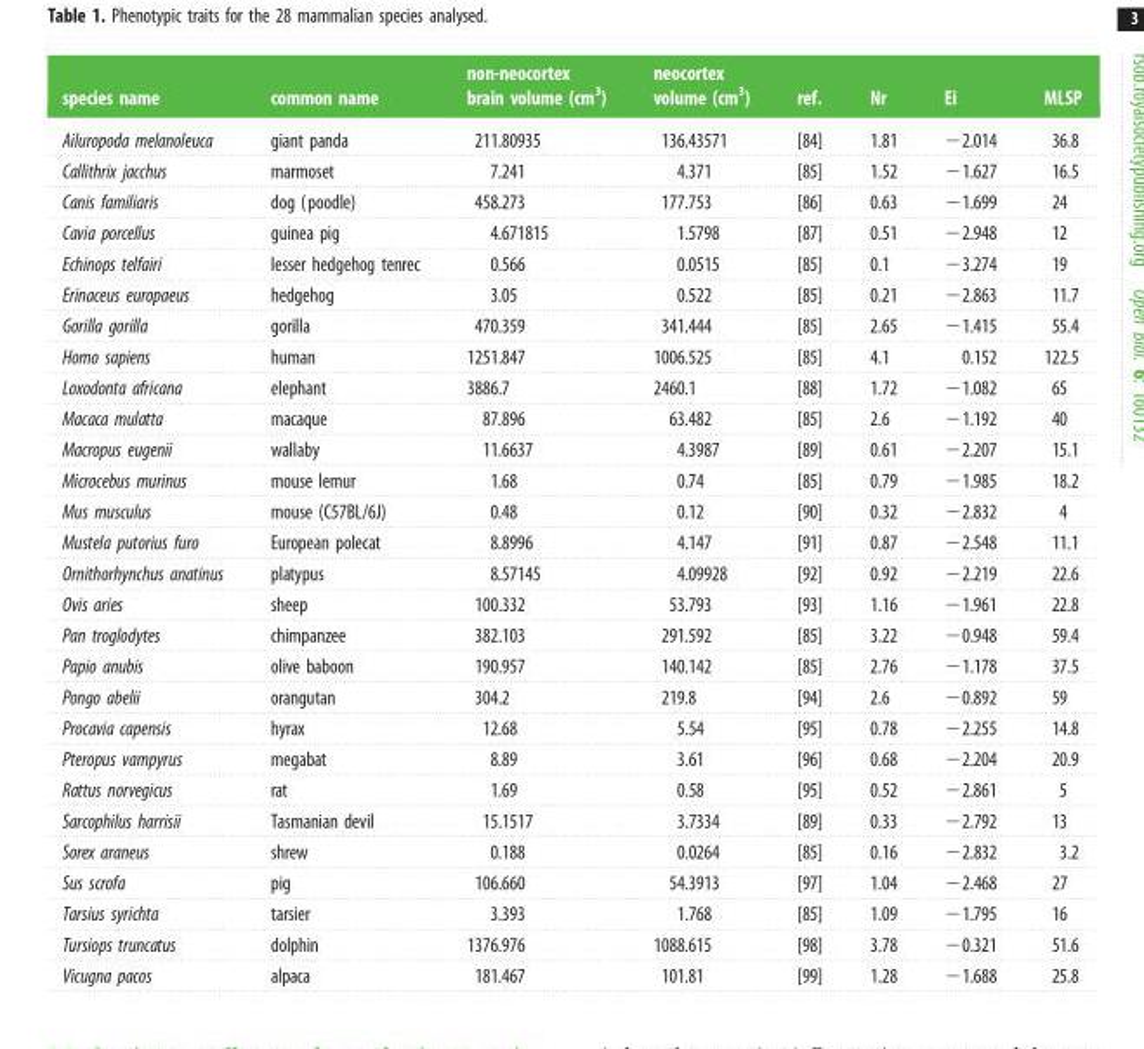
<table><thead><tr><td>species name</td><td>common name</td><td>non-neocortex brain volume (cm<sup>3</sup>)</td><td>neocortex volume (cm<sup>3</sup>)</td><td>ref.</td><td>Nr</td><td>Ei</td><td>MLSP</td></tr></thead><tbody><tr><td>Ailuropoda melanoleuca</td><td>giant panda</td><td>211.80935</td><td>136.43571</td><td>[84]</td><td>1.81</td><td>−2.014</td><td>36.8</td></tr><tr><td>Callithrix jacchus</td><td>marmoset</td><td>7.241</td><td>4.371</td><td>[85]</td><td>1.52</td><td>−1.627</td><td>16.5</td></tr><tr><td>Canis familiaris</td><td>dog (poodle)</td><td>458.273</td><td>177.753</td><td>[86]</td><td>0.63</td><td>−1.699</td><td>24</td></tr><tr><td>Cavia porcellus</td><td>guinea pig</td><td>4.671815</td><td>1.5798</td><td>[87]</td><td>0.51</td><td>−2.948</td><td>12</td></tr><tr><td>Echinops telfairi</td><td>lesser hedgehog tenrec</td><td>0.566</td><td>0.0515</td><td>[85]</td><td>0.1</td><td>−3.274</td><td>19</td></tr><tr><td>Erinaceus europaeus</td><td>hedgehog</td><td>3.05</td><td>0.522</td><td>[85]</td><td>0.21</td><td>−2.863</td><td>11.7</td></tr><tr><td>Gorilla gorilla</td><td>gorilla</td><td>470.359</td><td>341.444</td><td>[85]</td><td>2.65</td><td>−1.415</td><td>55.4</td></tr><tr><td>Homo sapiens</td><td>human</td><td>1251.847</td><td>1006.525</td><td>[85]</td><td>4.1</td><td>0.152</td><td>122.5</td></tr><tr><td>Loxodonta africana</td><td>elephant</td><td>3886.7</td><td>2460.1</td><td>[88]</td><td>1.72</td><td>−1.082</td><td>65</td></tr><tr><td>Macaca mulatta</td><td>macaque</td><td>87.896</td><td>63.482</td><td>[85]</td><td>2.6</td><td>−1.192</td><td>40</td></tr><tr><td>Macropus eugenii</td><td>wallaby</td><td>11.6637</td><td>4.3987</td><td>[89]</td><td>0.61</td><td>−2.207</td><td>15.1</td></tr><tr><td>Microcebus murinus</td><td>mouse lemur</td><td>1.68</td><td>0.74</td><td>[85]</td><td>0.79</td><td>−1.985</td><td>18.2</td></tr><tr><td>Mus musculus</td><td>mouse (C57BL/6J)</td><td>0.48</td><td>0.12</td><td>[90]</td><td>0.32</td><td>−2.832</td><td>4</td></tr><tr><td>Mustela putorius furo</td><td>European polecat</td><td>8.8996</td><td>4.147</td><td>[91]</td><td>0.87</td><td>−2.548</td><td>11.1</td></tr><tr><td>Ornithorhynchus anatinus</td><td>platypus</td><td>8.57145</td><td>4.09928</td><td>[92]</td><td>0.92</td><td>−2.219</td><td>22.6</td></tr><tr><td>Ovis aries</td><td>sheep</td><td>100.332</td><td>53.793</td><td>[93]</td><td>1.16</td><td>−1.961</td><td>22.8</td></tr><tr><td>Pan troglodytes</td><td>chimpanzee</td><td>382.103</td><td>291.592</td><td>[85]</td><td>3.22</td><td>−0.948</td><td>59.4</td></tr><tr><td>Papio anubis</td><td>olive baboon</td><td>190.957</td><td>140.142</td><td>[85]</td><td>2.76</td><td>−1.178</td><td>37.5</td></tr><tr><td>Pongo abelii</td><td>orangutan</td><td>304.2</td><td>219.8</td><td>[94]</td><td>2.6</td><td>−0.892</td><td>59</td></tr><tr><td>Procavia capensis</td><td>hyrax</td><td>12.68</td><td>5.54</td><td>[95]</td><td>0.78</td><td>−2.255</td><td>14.8</td></tr><tr><td>Pteropus vampyrus</td><td>megabat</td><td>8.89</td><td>3.61</td><td>[96]</td><td>0.68</td><td>−2.204</td><td>20.9</td></tr><tr><td>Rattus norvegicus</td><td>rat</td><td>1.69</td><td>0.58</td><td>[95]</td><td>0.52</td><td>−2.861</td><td>5</td></tr><tr><td>Sarcophilus harrisii</td><td>Tasmanian devil</td><td>15.1517</td><td>3.7334</td><td>[89]</td><td>0.33</td><td>−2.792</td><td>13</td></tr><tr><td>Sorex araneus</td><td>shrew</td><td>0.188</td><td>0.0264</td><td>[85]</td><td>0.16</td><td>−2.832</td><td>3.2</td></tr><tr><td>Sus scrofa</td><td>pig</td><td>106.660</td><td>54.3913</td><td>[97]</td><td>1.04</td><td>−2.468</td><td>27</td></tr><tr><td>Tarsius syrichta</td><td>tarsier</td><td>3.393</td><td>1.768</td><td>[85]</td><td>1.09</td><td>−1.795</td><td>16</td></tr><tr><td>Tursiops truncatus</td><td>dolphin</td><td>1376.976</td><td>1088.615</td><td>[98]</td><td>3.78</td><td>−0.321</td><td>51.6</td></tr><tr><td>Vicugna pacos</td><td>alpaca</td><td>181.467</td><td>101.81</td><td>[99]</td><td>1.28</td><td>−1.688</td><td>25.8</td></tr></tbody></table>